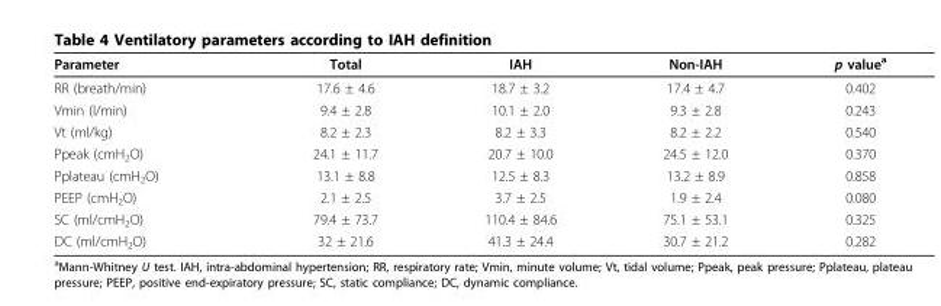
<table><thead><tr><td>Parameter</td><td>Total</td><td>IAH</td><td>Non-IAH</td><td>p value<sup>a</sup></td></tr></thead><tbody><tr><td>RR (breath/min)</td><td>17.6 ± 4.6</td><td>18.7 ± 3.2</td><td>17.4 ± 4.7</td><td>0.402</td></tr><tr><td>Vmin (l/min)</td><td>9.4 ± 2.8</td><td>10.1 ± 2.0</td><td>9.3 ± 2.8</td><td>0.243</td></tr><tr><td>Vt (ml/kg)</td><td>8.2 ± 2.3</td><td>8.2 ± 3.3</td><td>8.2 ± 2.2</td><td>0.540</td></tr><tr><td>Ppeak (cmH<sub>2</sub>O)</td><td>24.1 ± 11.7</td><td>20.7 ± 10.0</td><td>24.5 ± 12.0</td><td>0.370</td></tr><tr><td>Pplateau (cmH<sub>2</sub>O)</td><td>13.1 ± 8.8</td><td>12.5 ± 8.3</td><td>13.2 ± 8.9</td><td>0.858</td></tr><tr><td>PEEP (cmH<sub>2</sub>O)</td><td>2.1 ± 2.5</td><td>3.7 ± 2.5</td><td>1.9 ± 2.4</td><td>0.080</td></tr><tr><td>SC (ml/cmH<sub>2</sub>O)</td><td>79.4 ± 73.7</td><td>110.4 ± 84.6</td><td>75.1 ± 53.1</td><td>0.325</td></tr><tr><td>DC (ml/cmH<sub>2</sub>O)</td><td>32 ± 21.6</td><td>41.3 ± 24.4</td><td>30.7 ± 21.2</td><td>0.282</td></tr></tbody></table>